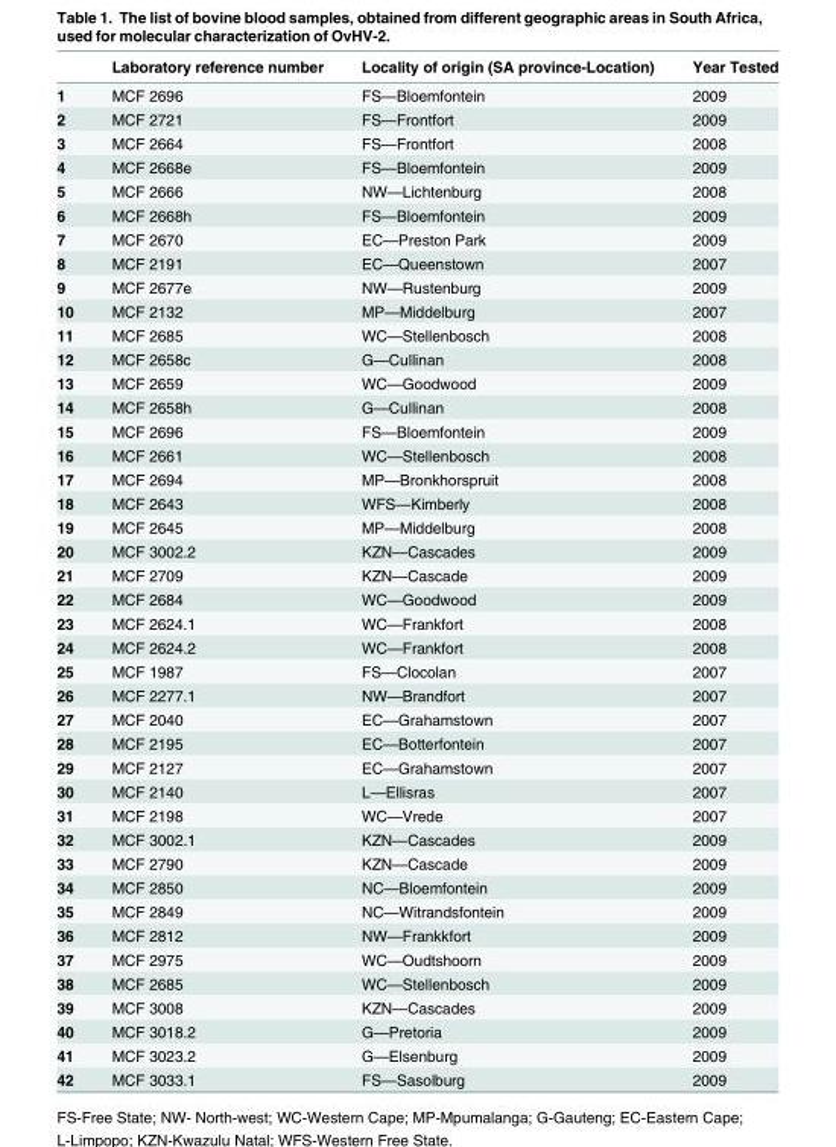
<table><thead><tr><td></td><td>Laboratory reference number</td><td>Locality of origin (SA province-Location)</td><td>Year Tested</td></tr></thead><tbody><tr><td>1</td><td>MCF 2696</td><td>FS—Bloemfontein</td><td>2009</td></tr><tr><td>2</td><td>MCF 2721</td><td>FS—Frontfort</td><td>2009</td></tr><tr><td>3</td><td>MCF 2664</td><td>FS—Frontfort</td><td>2008</td></tr><tr><td>4</td><td>MCF 2668e</td><td>FS—Bloemfontein</td><td>2009</td></tr><tr><td>5</td><td>MCF 2666</td><td>NW—Lichtenburg</td><td>2008</td></tr><tr><td>6</td><td>MCF 2668h</td><td>FS—Bloemfontein</td><td>2009</td></tr><tr><td>7</td><td>MCF 2670</td><td>EC—Preston Park</td><td>2009</td></tr><tr><td>8</td><td>MCF 2191</td><td>EC—Queenstown</td><td>2007</td></tr><tr><td>9</td><td>MCF 2677e</td><td>NW—Rustenburg</td><td>2009</td></tr><tr><td>10</td><td>MCF 2132</td><td>MP—Middelburg</td><td>2007</td></tr><tr><td>11</td><td>MCF 2685</td><td>WC—Stellenbosch</td><td>2008</td></tr><tr><td>12</td><td>MCF 2658c</td><td>G—Cullinan</td><td>2008</td></tr><tr><td>13</td><td>MCF 2659</td><td>WC—Goodwood</td><td>2009</td></tr><tr><td>14</td><td>MCF 2658h</td><td>G—Cullinan</td><td>2008</td></tr><tr><td>15</td><td>MCF 2696</td><td>FS—Bloemfontein</td><td>2009</td></tr><tr><td>16</td><td>MCF 2661</td><td>WC—Stellenbosch</td><td>2008</td></tr><tr><td>17</td><td>MCF 2694</td><td>MP—Bronkhorspruit</td><td>2008</td></tr><tr><td>18</td><td>MCF 2643</td><td>WFS—Kimberly</td><td>2008</td></tr><tr><td>19</td><td>MCF 2645</td><td>MP—Middelburg</td><td>2008</td></tr><tr><td>20</td><td>MCF 3002.2</td><td>KZN—Cascades</td><td>2009</td></tr><tr><td>21</td><td>MCF 2709</td><td>KZN—Cascade</td><td>2009</td></tr><tr><td>22</td><td>MCF 2684</td><td>WC—Goodwood</td><td>2009</td></tr><tr><td>23</td><td>MCF 2624.1</td><td>WC—Frankfort</td><td>2008</td></tr><tr><td>24</td><td>MCF 2624.2</td><td>WC—Frankfort</td><td>2008</td></tr><tr><td>25</td><td>MCF 1987</td><td>FS—Clocolan</td><td>2007</td></tr><tr><td>26</td><td>MCF 2277.1</td><td>NW—Brandfort</td><td>2007</td></tr><tr><td>27</td><td>MCF 2040</td><td>EC—Grahamstown</td><td>2007</td></tr><tr><td>28</td><td>MCF 2195</td><td>EC—Botterfontein</td><td>2007</td></tr><tr><td>29</td><td>MCF 2127</td><td>EC—Grahamstown</td><td>2007</td></tr><tr><td>30</td><td>MCF 2140</td><td>L—Ellisras</td><td>2007</td></tr><tr><td>31</td><td>MCF 2198</td><td>WC—Vrede</td><td>2007</td></tr><tr><td>32</td><td>MCF 3002.1</td><td>KZN—Cascades</td><td>2009</td></tr><tr><td>33</td><td>MCF 2790</td><td>KZN—Cascade</td><td>2009</td></tr><tr><td>34</td><td>MCF 2850</td><td>NC—Bloemfontein</td><td>2009</td></tr><tr><td>35</td><td>MCF 2849</td><td>NC—Witrandsfontein</td><td>2009</td></tr><tr><td>36</td><td>MCF 2812</td><td>NW—Frankkfort</td><td>2009</td></tr><tr><td>37</td><td>MCF 2975</td><td>WC—Oudtshoorn</td><td>2009</td></tr><tr><td>38</td><td>MCF 2685</td><td>WC—Stellenbosch</td><td>2009</td></tr><tr><td>39</td><td>MCF 3008</td><td>KZN—Cascades</td><td>2009</td></tr><tr><td>40</td><td>MCF 3018.2</td><td>G—Pretoria</td><td>2009</td></tr><tr><td>41</td><td>MCF 3023.2</td><td>G—Elsenburg</td><td>2009</td></tr><tr><td>42</td><td>MCF 3033.1</td><td>FS—Sasolburg</td><td>2009</td></tr></tbody></table>